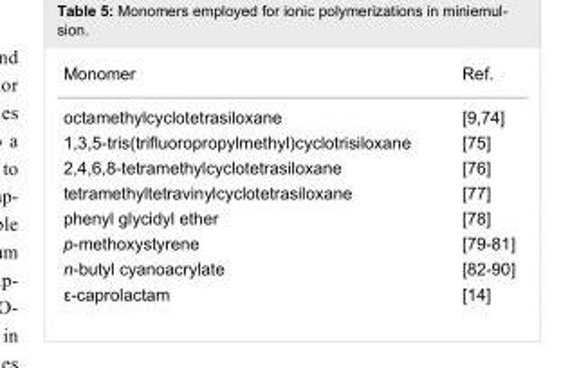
<table><tbody><tr><td>Monomer</td><td>Ref.</td></tr><tr><td>octamethylcyclotetrasiloxane</td><td>[9,74]</td></tr><tr><td>1,3,5-tris(trifluoropropylmethyl)cyclotrisiloxane</td><td>[75]</td></tr><tr><td>2,4,6,8-tetramethylcyclotetrasiloxane</td><td>[76]</td></tr><tr><td>tetramethyltetravinylcyclotetrasiloxane</td><td>[77]</td></tr><tr><td>phenyl glycidyl ether</td><td>[78]</td></tr><tr><td>p-methoxystyrene</td><td>[79-81]</td></tr><tr><td>n-butyl cyanoacrylate</td><td>[82-90]</td></tr><tr><td>ε-caprolactam</td><td>[14]</td></tr></tbody></table>